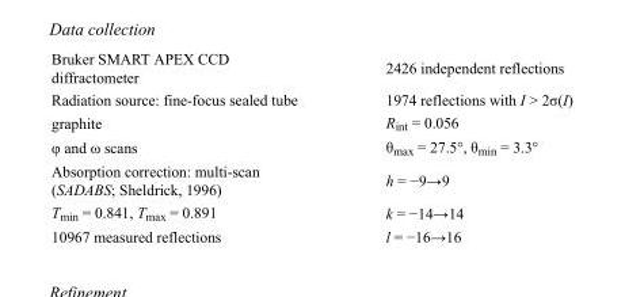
<table><tbody><tr><td>Bruker SMART APEX CCD diffractometer</td><td>2426 independent reflections</td></tr><tr><td>Radiation source: fine-focus sealed tube</td><td>1974 reflections with I &gt; 2σ(I)</td></tr><tr><td>graphite</td><td>R<sub>int</sub> = 0.056</td></tr><tr><td>φ and ω scans</td><td>θ<sub>max</sub> = 27.5°, θ<sub>min</sub> = 3.3°</td></tr><tr><td>Absorption correction: multi-scan (SADABS; Sheldrick, 1996)</td><td>h = −9→9</td></tr><tr><td>T<sub>min</sub> = 0.841, T<sub>max</sub> = 0.891</td><td>k = −14→14</td></tr><tr><td>10967 measured reflections</td><td>l = −16→16</td></tr></tbody></table>